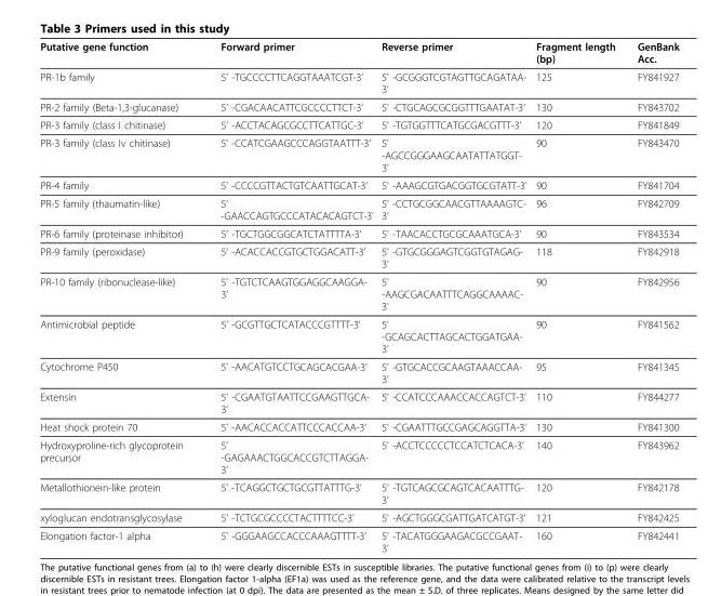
<table><thead><tr><td>Putative gene function</td><td>Forward primer</td><td>Reverse primer</td><td>Fragment length (bp)</td><td>GenBank Acc.</td></tr></thead><tbody><tr><td>PR-1b family</td><td>5’ -TGCCCCTTCAGGTAAATCGT-3’</td><td>5’ -GCGGGTCGTAGTTGCAGATAA- 3’</td><td>125</td><td>FY841927</td></tr><tr><td>PR-2 family (Beta-1,3-glucanase)</td><td>5’ -CGACAACATTCGCCCCTTCT-3’</td><td>5’ -CTGCAGCGCGGTTTGAATAT-3’</td><td>130</td><td>FY843702</td></tr><tr><td>PR-3 family (class I chitinase)</td><td>5’ -ACCTACAGCGCCTTCATTGC-3’</td><td>5’ -TGTGGTTTCATGCGACGTTT-3’</td><td>120</td><td>FY841849</td></tr><tr><td>PR-3 family (class Iv chitinase)</td><td>5’ -CCATCGAAGCCCAGGTAATTT-3’</td><td>5’ -AGCCGGGAAGCAATATTATGGT- 3’</td><td>90</td><td>FY843470</td></tr><tr><td>PR-4 family</td><td>5’ -CCCCGTTACTGTCAATTGCAT-3’</td><td>5’ -AAAGCGTGACGGTGCGTATT-3’</td><td>90</td><td>FY841704</td></tr><tr><td>PR-5 family (thaumatin-like)</td><td>5’ -GAACCAGTGCCCATACACAGTCT-3’</td><td>5’ -CCTGCGGCAACGTTAAAAGTC- 3’</td><td>96</td><td>FY842709</td></tr><tr><td>PR-6 family (proteinase inhibitor)</td><td>5’ -TGCTGGCGGCATCTATTTTA-3’</td><td>5’ -TAACACCTGCGCAAATGCA-3’</td><td>90</td><td>FY843534</td></tr><tr><td>PR-9 family (peroxidase)</td><td>5’ -ACACCACCGTGCTGGACATT-3’</td><td>5’ -GTGCGGGAGTCGGTGTAGAG- 3’</td><td>118</td><td>FY842918</td></tr><tr><td>PR-10 family (ribonuclease-like)</td><td>5’ -TGTCTCAAGTGGAGGCAAGGA- 3’</td><td>5’ -AAGCGACAATTTCAGGCAAAAC- 3’</td><td>90</td><td>FY842956</td></tr><tr><td>Antimicrobial peptide</td><td>5’ -GCGTTGCTCATACCCGTTTT-3’</td><td>5’ -GCAGCACTTAGCACTGGATGAA- 3’</td><td>90</td><td>FY841562</td></tr><tr><td>Cytochrome P450</td><td>5’ -AACATGTCCTGCAGCACGAA-3’</td><td>5’ -GTGCACCGCAAGTAAACCAA- 3’</td><td>95</td><td>FY841345</td></tr><tr><td>Extensin</td><td>5’ -CGAATGTAATTCCGAAGTTGCA- 3’</td><td>5’ -CCATCCCAAACCACCAGTCT-3’</td><td>110</td><td>FY844277</td></tr><tr><td>Heat shock protein 70</td><td>5’ -AACACCACCATTCCCACCAA-3’</td><td>5’ -CGAATTTGCCGAGCAGGTTA-3’</td><td>130</td><td>FY841300</td></tr><tr><td>Hydroxyproline-rich glycoprotein precursor</td><td>5’ -GAGAAACTGGCACCGTCTTAGGA- 3’</td><td>5’ -ACCTCCCCCTCCATCTCACA-3’</td><td>140</td><td>FY843962</td></tr><tr><td>Metallothionein-like protein</td><td>5’ -TCAGGCTGCTGCGTTATTTG-3’</td><td>5’ -TGTCAGCGCAGTCACAATTTG- 3’</td><td>120</td><td>FY842178</td></tr><tr><td>xyloglucan endotransglycosylase</td><td>5’ -TCTGCGCCCCTACTTTTCC-3’</td><td>5’ -AGCTGGGCGATTGATCATGT-3’</td><td>121</td><td>FY842425</td></tr><tr><td>Elongation factor-1 alpha</td><td>5’ -GGGAAGCCACCCAAAGTTTT-3’</td><td>5’ -TACATGGGAAGACGCCGAAT- 3’</td><td>160</td><td>FY842441</td></tr></tbody></table>